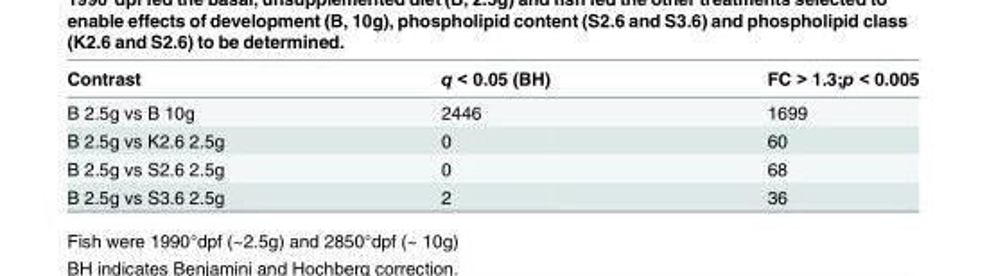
<table><thead><tr><td>Contrast</td><td>q &lt; 0.05 (BH)</td><td>FC &gt; 1.3;p &lt; 0.005</td></tr></thead><tbody><tr><td>B 2.5g vs B 10g</td><td>2446</td><td>1699</td></tr><tr><td>B 2.5g vs K2.6 2.5g</td><td>0</td><td>60</td></tr><tr><td>B 2.5g vs S2.6 2.5g</td><td>0</td><td>68</td></tr><tr><td>B 2.5g vs S3.6 2.5g</td><td>2</td><td>36</td></tr></tbody></table>